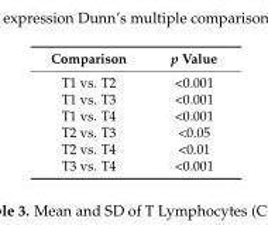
<table><thead><tr><td>Comparison</td><td>p Value</td></tr></thead><tbody><tr><td>T1 vs. T2</td><td>&lt;0.001</td></tr><tr><td>T1 vs. T3</td><td>&lt;0.001</td></tr><tr><td>T1 vs. T4</td><td>&lt;0.001</td></tr><tr><td>T2 vs. T3</td><td>&lt;0.05</td></tr><tr><td>T2 vs. T4</td><td>&lt;0.01</td></tr><tr><td>T3 vs. T4</td><td>&lt;0.001</td></tr></tbody></table>